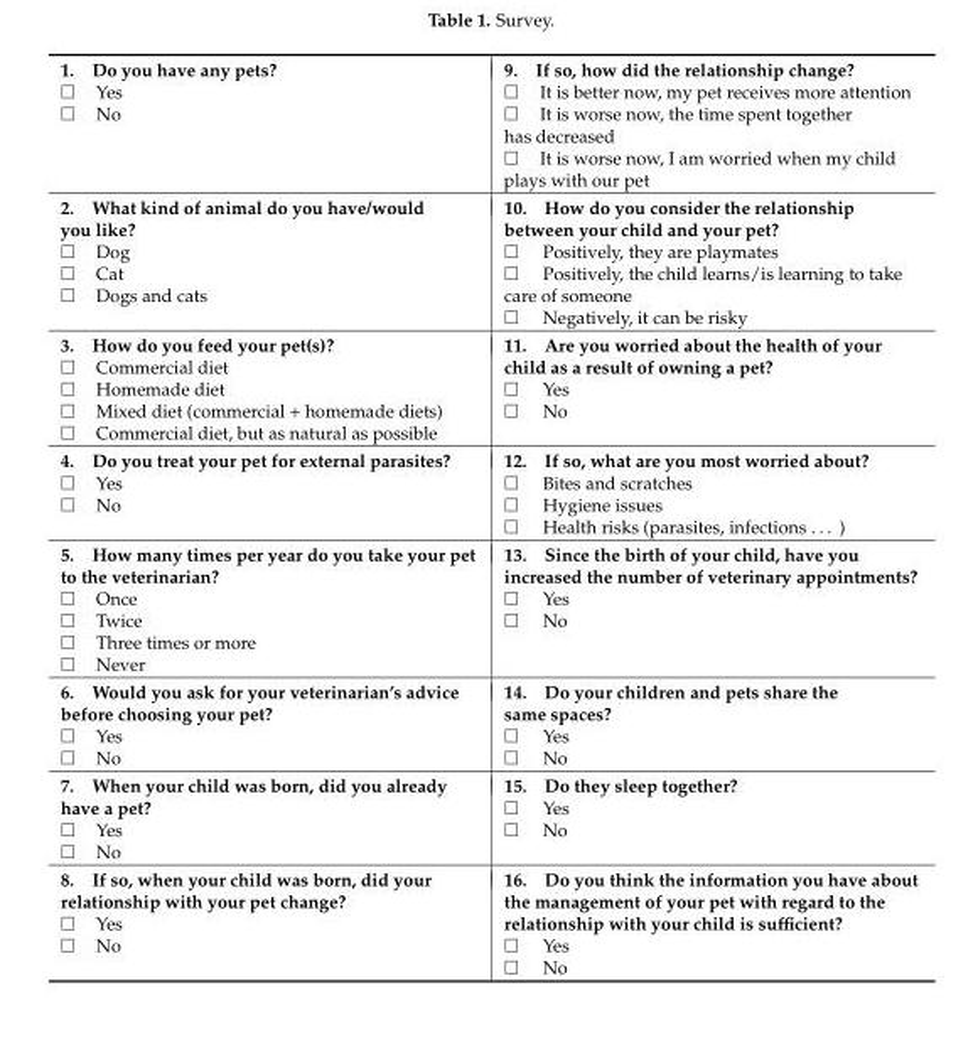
<table><tbody><tr><td>1. Do you have any pets? □ Yes □ No</td><td>9. If so, how did the relationship change? □ It is better now, my pet receives more attention □ It is worse now, the time spent together has decreased □ It is worse now, I am worried when my child plays with our pet</td></tr><tr><td>2. What kind of animal do you have/would you like? □ Dog □ Cat □ Dogs and cats</td><td>10. How do you consider the relationship between your child and your pet? □ Positively, they are playmates □ Positively, the child learns/is learning to take care of someone □ Negatively, it can be risky</td></tr><tr><td>3. How do you feed your pet(s)? □ Commercial diet □ Homemade diet □ Mixed diet (commercial + homemade diets) □ Commercial diet, but as natural as possible</td><td>11. Are you worried about the health of your child as a result of owning a pet? □ Yes □ No</td></tr><tr><td>4. Do you treat your pet for external parasites? □ Yes □ No</td><td>12. If so, what are you most worried about? □ Bites and scratches □ Hygiene issues □ Health risks (parasites, infections . . . )</td></tr><tr><td>5. How many times per year do you take your pet to the veterinarian? □ Once □ Twice □ Three times or more □ Never</td><td>13. Since the birth of your child, have you increased the number of veterinary appointments? □ Yes □ No</td></tr><tr><td>6. Would you ask for your veterinarian’s advice before choosing your pet? □ Yes □ No</td><td>14. Do your children and pets share the same spaces? □ Yes □ No</td></tr><tr><td>7. When your child was born, did you already have a pet? □ Yes □ No</td><td>15. Do they sleep together? □ Yes □ No</td></tr><tr><td>8. If so, when your child was born, did your relationship with your pet change? □ Yes □ No</td><td>16. Do you think the information you have about the management of your pet with regard to the relationship with your child is sufficient? □ Yes □ No</td></tr></tbody></table>